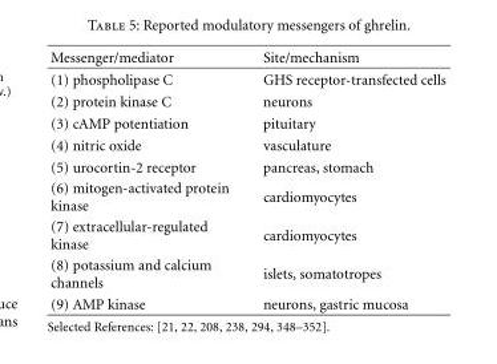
<table><thead><tr><td>Messenger/mediator</td><td>Site/mechanism</td></tr></thead><tbody><tr><td>(1) phospholipase C</td><td>GHS receptor-transfected cells</td></tr><tr><td>(2) protein kinase C</td><td>neurons</td></tr><tr><td>(3) cAMP potentiation</td><td>pituitary</td></tr><tr><td>(4) nitric oxide</td><td>vasculature</td></tr><tr><td>(5) urocortin-2 receptor</td><td>pancreas, stomach</td></tr><tr><td>(6) mitogen-activated protein kinase</td><td>cardiomyocytes</td></tr><tr><td>(7) extracellular-regulated kinase</td><td>cardiomyocytes</td></tr><tr><td>(8) potassium and calcium channels</td><td>islets, somatotropes</td></tr><tr><td>(9) AMP kinase</td><td>neurons, gastric mucosa</td></tr></tbody></table>